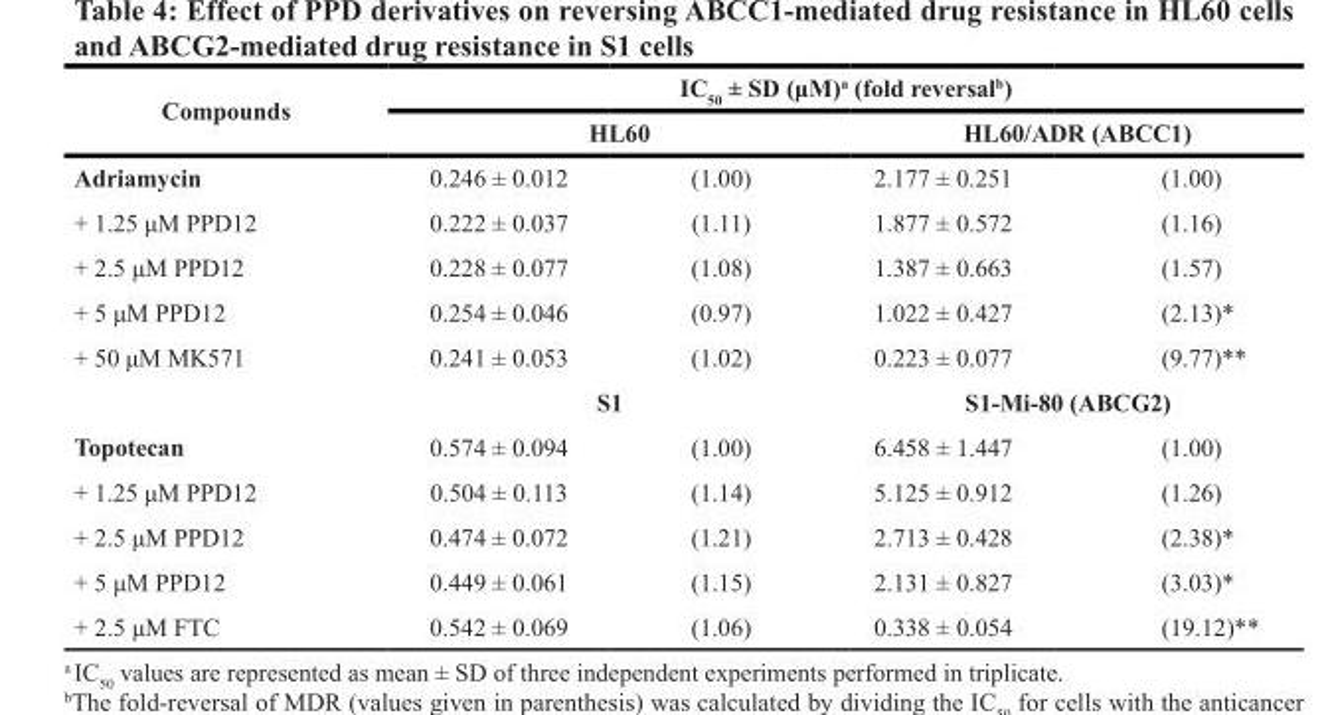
<table><thead><tr><td rowspan="3">Compounds Adriamycin</td><td colspan="4">IC<sub>50</sub> ± SD (μM)<sup>a</sup> (fold reversal<sup>b</sup>)</td></tr><tr><td colspan="2">HL60</td><td colspan="2">HL60/ADR (ABCC1)</td></tr><tr><td>0.246 ± 0.012</td><td>(1.00)</td><td>2.177 ± 0.251</td><td>(1.00)</td></tr></thead><tbody><tr><td>+ 1.25 μM PPD12</td><td>0.222 ± 0.037</td><td>(1.11)</td><td>1.877 ± 0.572</td><td>(1.16)</td></tr><tr><td>+ 2.5 μM PPD12</td><td>0.228 ± 0.077</td><td>(1.08)</td><td>1.387 ± 0.663</td><td>(1.57)</td></tr><tr><td>+ 5 μM PPD12</td><td>0.254 ± 0.046</td><td>(0.97)</td><td>1.022 ± 0.427</td><td>(2.13)*</td></tr><tr><td rowspan="2">+ 50 μM MK571</td><td>0.241 ± 0.053</td><td>(1.02)</td><td>0.223 ± 0.077</td><td>(9.77)**</td></tr><tr><td colspan="2">S1</td><td colspan="2">S1-Mi-80 (ABCG2)</td></tr><tr><td>Topotecan</td><td>0.574 ± 0.094</td><td>(1.00)</td><td>6.458 ± 1.447</td><td>(1.00)</td></tr><tr><td>+ 1.25 μM PPD12</td><td>0.504 ± 0.113</td><td>(1.14)</td><td>5.125 ± 0.912</td><td>(1.26)</td></tr><tr><td>+ 2.5 μM PPD12</td><td>0.474 ± 0.072</td><td>(1.21)</td><td>2.713 ± 0.428</td><td>(2.38)*</td></tr><tr><td>+ 5 μM PPD12</td><td>0.449 ± 0.061</td><td>(1.15)</td><td>2.131 ± 0.827</td><td>(3.03)*</td></tr><tr><td>+ 2.5 μM FTC</td><td>0.542 ± 0.069</td><td>(1.06)</td><td>0.338 ± 0.054</td><td>(19.12)**</td></tr></tbody></table>